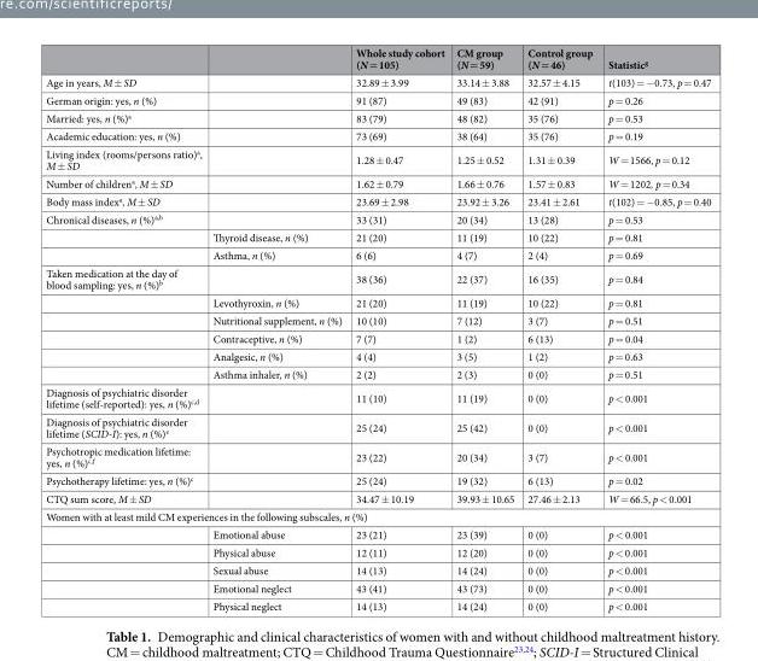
<table><thead><tr><td></td><td></td><td>Whole study cohort (N = 105)</td><td>CM group (N = 59)</td><td>Control group (N = 46)</td><td>Statistic<sup>g</sup></td></tr></thead><tbody><tr><td>Age in years, M ± SD</td><td></td><td>32.89 ± 3.99</td><td>33.14 ± 3.88</td><td>32.57 ± 4.15</td><td>t(103) = −0.73, p = 0.47</td></tr><tr><td>German origin: yes, n (%)</td><td></td><td>91 (87)</td><td>49 (83)</td><td>42 (91)</td><td>p = 0.26</td></tr><tr><td>Married: yes, n (%)<sup>a</sup></td><td></td><td>83 (79)</td><td>48 (82)</td><td>35 (76)</td><td>p = 0.53</td></tr><tr><td>Academic education: yes, n (%)</td><td></td><td>73 (69)</td><td>38 (64)</td><td>35 (76)</td><td>p = 0.19</td></tr><tr><td>Living index (rooms/persons ratio)<sup>a</sup>, M ± SD</td><td></td><td>1.28 ± 0.47</td><td>1.25 ± 0.52</td><td>1.31 ± 0.39</td><td>W = 1566, p = 0.12</td></tr><tr><td>Number of children<sup>a</sup>, M ± SD</td><td></td><td>1.62 ± 0.79</td><td>1.66 ± 0.76</td><td>1.57 ± 0.83</td><td>W = 1202, p = 0.34</td></tr><tr><td>Body mass index<sup>a</sup>, M ± SD</td><td></td><td>23.69 ± 2.98</td><td>23.92 ± 3.26</td><td>23.41 ± 2.61</td><td>t(102) = −0.85, p = 0.40</td></tr><tr><td rowspan="3">Chronical diseases, n (%)<sup>a,b</sup></td><td></td><td>33 (31)</td><td>20 (34)</td><td>13 (28)</td><td>p = 0.53</td></tr><tr><td>Thyroid disease, n (%)</td><td>21 (20)</td><td>11 (19)</td><td>10 (22)</td><td>p = 0.81</td></tr><tr><td>Asthma, n (%)</td><td>6 (6)</td><td>4 (7)</td><td>2 (4)</td><td>p = 0.69</td></tr><tr><td rowspan="6">Taken medication at the day of blood sampling: yes, n (%)<sup>b</sup></td><td></td><td>38 (36)</td><td>22 (37)</td><td>16 (35)</td><td>p = 0.84</td></tr><tr><td>Levothyroxin, n (%)</td><td>21 (20)</td><td>11 (19)</td><td>10 (22)</td><td>p = 0.81</td></tr><tr><td>Nutritional supplement, n (%)</td><td>10 (10)</td><td>7 (12)</td><td>3 (7)</td><td>p = 0.51</td></tr><tr><td>Contraceptive, n (%)</td><td>7 (7)</td><td>1 (2)</td><td>6 (13)</td><td>p = 0.04</td></tr><tr><td>Analgesic, n (%)</td><td>4 (4)</td><td>3 (5)</td><td>1 (2)</td><td>p = 0.63</td></tr><tr><td>Asthma inhaler, n (%)</td><td>2 (2)</td><td>2 (3)</td><td>0 (0)</td><td>p = 0.51</td></tr><tr><td>Diagnosis of psychiatric disorder lifetime (self-reported): yes, n (%)<sup>c,d</sup></td><td></td><td>11 (10)</td><td>11 (19)</td><td>0 (0)</td><td>p &lt; 0.001</td></tr><tr><td>Diagnosis of psychiatric disorder lifetime (SCID-I): yes, n (%)<sup>e</sup></td><td></td><td>25 (24)</td><td>25 (42)</td><td>0 (0)</td><td>p &lt; 0.001</td></tr><tr><td>Psychotropic medication lifetime: yes, n (%)<sup>c,f</sup></td><td></td><td>23 (22)</td><td>20 (34)</td><td>3 (7)</td><td>p &lt; 0.001</td></tr><tr><td>Psychotherapy lifetime: yes, n (%)<sup>c</sup></td><td></td><td>25 (24)</td><td>19 (32)</td><td>6 (13)</td><td>p = 0.02</td></tr><tr><td>CTQ sum score, M ± SD</td><td></td><td>34.47 ± 10.19</td><td>39.93 ± 10.65</td><td>27.46 ± 2.13</td><td>W = 66.5, p &lt; 0.001</td></tr><tr><td colspan="6">Women with at least mild CM experiences in the following subscales, n (%)</td></tr><tr><td></td><td>Emotional abuse</td><td>23 (21)</td><td>23 (39)</td><td>0 (0)</td><td>p &lt; 0.001</td></tr><tr><td></td><td>Physical abuse</td><td>12 (11)</td><td>12 (20)</td><td>0 (0)</td><td>p &lt; 0.001</td></tr><tr><td></td><td>Sexual abuse</td><td>14 (13)</td><td>14 (24)</td><td>0 (0)</td><td>p &lt; 0.001</td></tr><tr><td></td><td>Emotional neglect</td><td>43 (41)</td><td>43 (73)</td><td>0 (0)</td><td>p &lt; 0.001</td></tr><tr><td></td><td>Physical neglect</td><td>14 (13)</td><td>14 (24)</td><td>0 (0)</td><td>p &lt; 0.001</td></tr></tbody></table>